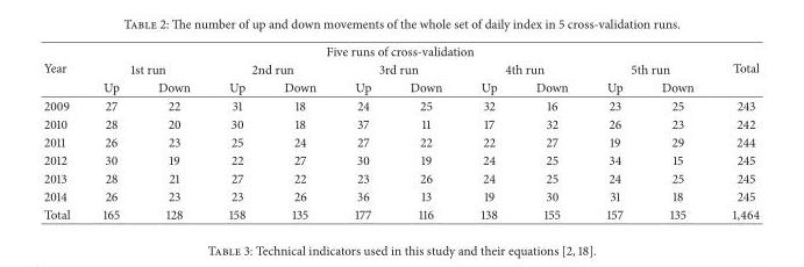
<table><thead><tr><td rowspan="3">Year</td><td colspan="10">Five runs of cross-validation</td><td rowspan="3">Total</td></tr><tr><td colspan="2">1st run</td><td colspan="2">2nd run</td><td colspan="2">3rd run</td><td colspan="2">4th run</td><td colspan="2">5th run</td></tr><tr><td>Up</td><td>Down</td><td>Up</td><td>Down</td><td>Up</td><td>Down</td><td>Up</td><td>Down</td><td>Up</td><td>Down</td></tr></thead><tbody><tr><td>2009</td><td>27</td><td>22</td><td>31</td><td>18</td><td>24</td><td>25</td><td>32</td><td>16</td><td>23</td><td>25</td><td>243</td></tr><tr><td>2010</td><td>28</td><td>20</td><td>30</td><td>18</td><td>37</td><td>11</td><td>17</td><td>32</td><td>26</td><td>23</td><td>242</td></tr><tr><td>2011</td><td>26</td><td>23</td><td>25</td><td>24</td><td>27</td><td>22</td><td>22</td><td>27</td><td>19</td><td>29</td><td>244</td></tr><tr><td>2012</td><td>30</td><td>19</td><td>22</td><td>27</td><td>30</td><td>19</td><td>24</td><td>25</td><td>34</td><td>15</td><td>245</td></tr><tr><td>2013</td><td>28</td><td>21</td><td>27</td><td>22</td><td>23</td><td>26</td><td>24</td><td>25</td><td>24</td><td>25</td><td>245</td></tr><tr><td>2014</td><td>26</td><td>23</td><td>23</td><td>26</td><td>36</td><td>13</td><td>19</td><td>30</td><td>31</td><td>18</td><td>245</td></tr><tr><td>Total</td><td>165</td><td>128</td><td>158</td><td>135</td><td>177</td><td>116</td><td>138</td><td>155</td><td>157</td><td>135</td><td>1,464</td></tr></tbody></table>